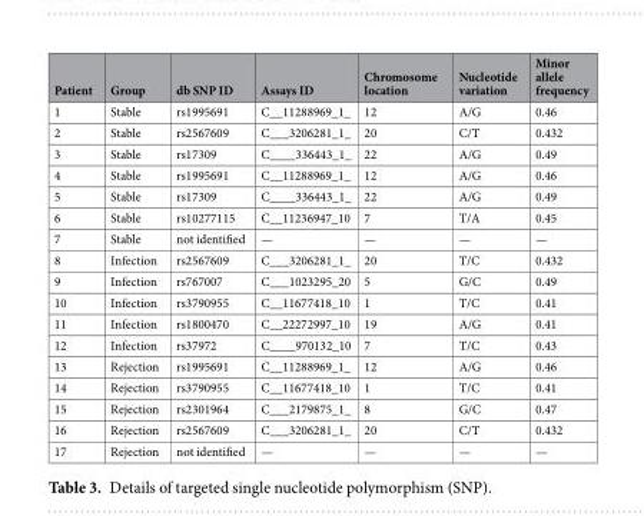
<table><thead><tr><td>Patient</td><td>Group</td><td>db SNP ID</td><td>Assays ID</td><td>Chromosome location</td><td>Nucleotide variation</td><td>Minor allele frequency</td></tr></thead><tbody><tr><td>1</td><td>Stable</td><td>rs1995691</td><td>C__11288969_1_</td><td>12</td><td>A/G</td><td>0.46</td></tr><tr><td>2</td><td>Stable</td><td>rs2567609</td><td>C___3206281_1_</td><td>20</td><td>C/T</td><td>0.432</td></tr><tr><td>3</td><td>Stable</td><td>rs17309</td><td>C____336443_1_</td><td>22</td><td>A/G</td><td>0.49</td></tr><tr><td>4</td><td>Stable</td><td>rs1995691</td><td>C__11288969_1_</td><td>12</td><td>A/G</td><td>0.46</td></tr><tr><td>5</td><td>Stable</td><td>rs17309</td><td>C____336443_1_</td><td>22</td><td>A/G</td><td>0.49</td></tr><tr><td>6</td><td>Stable</td><td>rs10277115</td><td>C__11236947_10</td><td>7</td><td>T/A</td><td>0.45</td></tr><tr><td>7</td><td>Stable</td><td>not identified</td><td>—</td><td>—</td><td>—</td><td>—</td></tr><tr><td>8</td><td>Infection</td><td>rs2567609</td><td>C___3206281_1_</td><td>20</td><td>T/C</td><td>0.432</td></tr><tr><td>9</td><td>Infection</td><td>rs767007</td><td>C___1023295_20</td><td>5</td><td>G/C</td><td>0.49</td></tr><tr><td>10</td><td>Infection</td><td>rs3790955</td><td>C__11677418_10</td><td>1</td><td>T/C</td><td>0.41</td></tr><tr><td>11</td><td>Infection</td><td>rs1800470</td><td>C__22272997_10</td><td>19</td><td>A/G</td><td>0.41</td></tr><tr><td>12</td><td>Infection</td><td>rs37972</td><td>C____970132_10</td><td>7</td><td>T/C</td><td>0.43</td></tr><tr><td>13</td><td>Rejection</td><td>rs1995691</td><td>C__11288969_1_</td><td>12</td><td>A/G</td><td>0.46</td></tr><tr><td>14</td><td>Rejection</td><td>rs3790955</td><td>C__11677418_10</td><td>1</td><td>T/C</td><td>0.41</td></tr><tr><td>15</td><td>Rejection</td><td>rs2301964</td><td>C___2179875_1_</td><td>8</td><td>G/C</td><td>0.47</td></tr><tr><td>16</td><td>Rejection</td><td>rs2567609</td><td>C___3206281_1_</td><td>20</td><td>C/T</td><td>0.432</td></tr><tr><td>17</td><td>Rejection</td><td>not identified</td><td>—</td><td>—</td><td>—</td><td>—</td></tr></tbody></table>